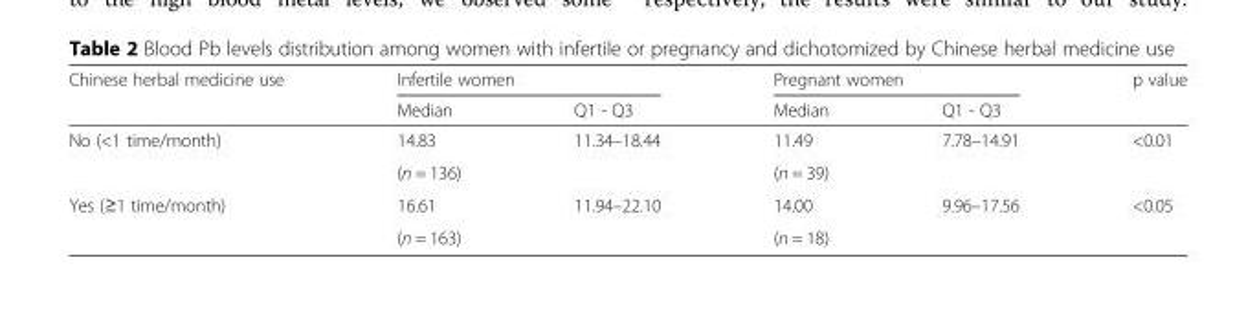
<table><thead><tr><td rowspan="2">Chinese herbal medicine use</td><td colspan="2">Infertile women</td><td colspan="2">Pregnant women</td><td rowspan="2">p value</td></tr><tr><td>Median</td><td>Q1 - Q3</td><td>Median</td><td>Q1 - Q3</td></tr></thead><tbody><tr><td rowspan="2">No (&lt;1 time/month)</td><td>14.83</td><td rowspan="2">11.34–18.44</td><td>11.49</td><td rowspan="2">7.78–14.91</td><td rowspan="2">&lt;0.01</td></tr><tr><td>(n = 136)</td><td>(n = 39)</td></tr><tr><td rowspan="2">Yes (≥1 time/month)</td><td>16.61</td><td rowspan="2">11.94–22.10</td><td>14.00</td><td rowspan="2">9.96–17.56</td><td rowspan="2">&lt;0.05</td></tr><tr><td>(n = 163)</td><td>(n = 18)</td></tr></tbody></table>